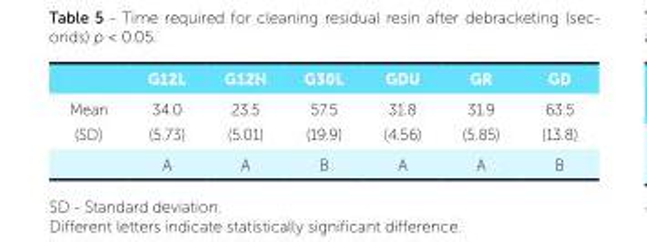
<table><thead><tr><td></td><td>G12L</td><td>G12H</td><td>G30L</td><td>GDU</td><td>GR</td><td>GD</td></tr></thead><tbody><tr><td rowspan="2">Mean (SD)</td><td>34.0 (5.73)</td><td>23.5 (5.01)</td><td>57.5 (19.9)</td><td>31.8 (4.56)</td><td>31.9 (5.85)</td><td>63.5 (13.8)</td></tr><tr><td>A</td><td>A</td><td>B</td><td>A</td><td>A</td><td>B</td></tr></tbody></table>